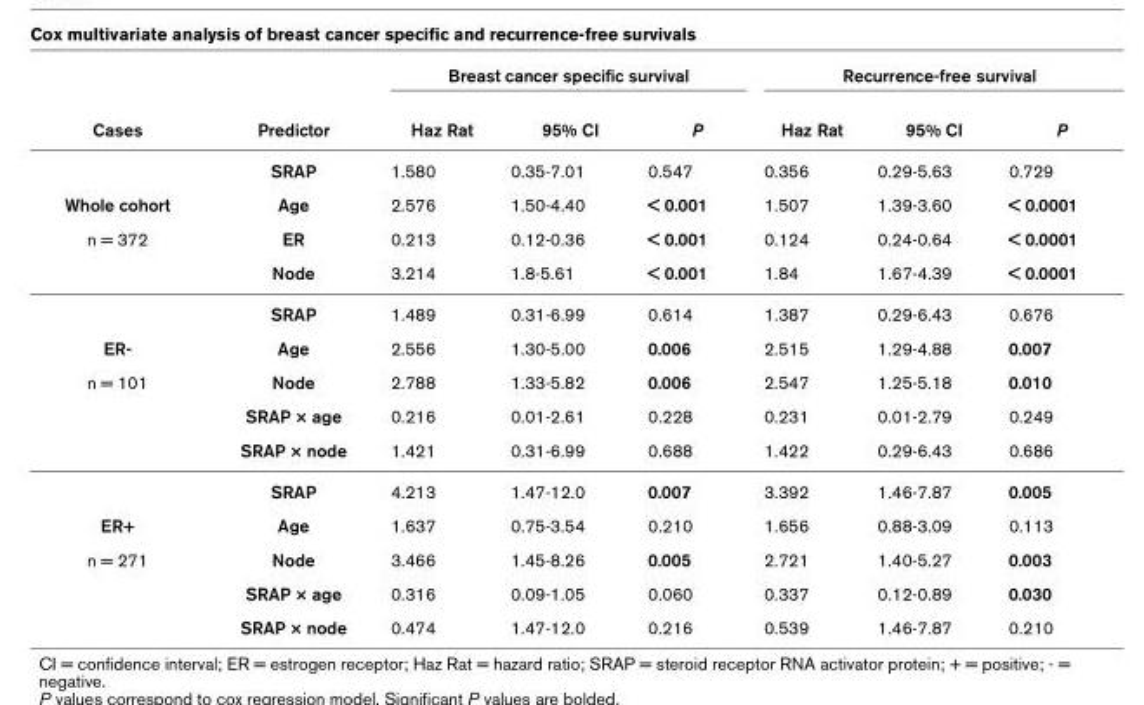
<table><thead><tr><td rowspan="2">Cases</td><td rowspan="2">Predictor</td><td colspan="3">Breast cancer specific survival</td><td colspan="3">Recurrence-free survival</td></tr><tr><td>Haz Rat</td><td>95% CI</td><td>P</td><td>Haz Rat</td><td>95% CI</td><td>P</td></tr></thead><tbody><tr><td></td><td>SRAP</td><td>1.580</td><td>0.35-7.01</td><td>0.547</td><td>0.356</td><td>0.29-5.63</td><td>0.729</td></tr><tr><td>Whole cohort</td><td>Age</td><td>2.576</td><td>1.50-4.40</td><td>&lt; 0.001</td><td>1.507</td><td>1.39-3.60</td><td>&lt; 0.0001</td></tr><tr><td rowspan="3">n = 372</td><td>ER</td><td>0.213</td><td>0.12-0.36</td><td>&lt; 0.001</td><td>0.124</td><td>0.24-0.64</td><td>&lt; 0.0001</td></tr><tr><td>Node</td><td>3.214</td><td>1.8-5.61</td><td>&lt; 0.001</td><td>1.84</td><td>1.67-4.39</td><td>&lt; 0.0001</td></tr><tr><td>SRAP</td><td>1.489</td><td>0.31-6.99</td><td>0.614</td><td>1.387</td><td>0.29-6.43</td><td>0.676</td></tr><tr><td>ER-</td><td>Age</td><td>2.556</td><td>1.30-5.00</td><td>0.006</td><td>2.515</td><td>1.29-4.88</td><td>0.007</td></tr><tr><td rowspan="4">n = 101</td><td>Node</td><td>2.788</td><td>1.33-5.82</td><td>0.006</td><td>2.547</td><td>1.25-5.18</td><td>0.010</td></tr><tr><td>SRAP × age</td><td>0.216</td><td>0.01-2.61</td><td>0.228</td><td>0.231</td><td>0.01-2.79</td><td>0.249</td></tr><tr><td>SRAP × node</td><td>1.421</td><td>0.31-6.99</td><td>0.688</td><td>1.422</td><td>0.29-6.43</td><td>0.686</td></tr><tr><td>SRAP</td><td>4.213</td><td>1.47-12.0</td><td>0.007</td><td>3.392</td><td>1.46-7.87</td><td>0.005</td></tr><tr><td>ER+</td><td>Age</td><td>1.637</td><td>0.75-3.54</td><td>0.210</td><td>1.656</td><td>0.88-3.09</td><td>0.113</td></tr><tr><td rowspan="3">n = 271</td><td>Node</td><td>3.466</td><td>1.45-8.26</td><td>0.005</td><td>2.721</td><td>1.40-5.27</td><td>0.003</td></tr><tr><td>SRAP × age</td><td>0.316</td><td>0.09-1.05</td><td>0.060</td><td>0.337</td><td>0.12-0.89</td><td>0.030</td></tr><tr><td>SRAP × node</td><td>0.474</td><td>1.47-12.0</td><td>0.216</td><td>0.539</td><td>1.46-7.87</td><td>0.210</td></tr></tbody></table>